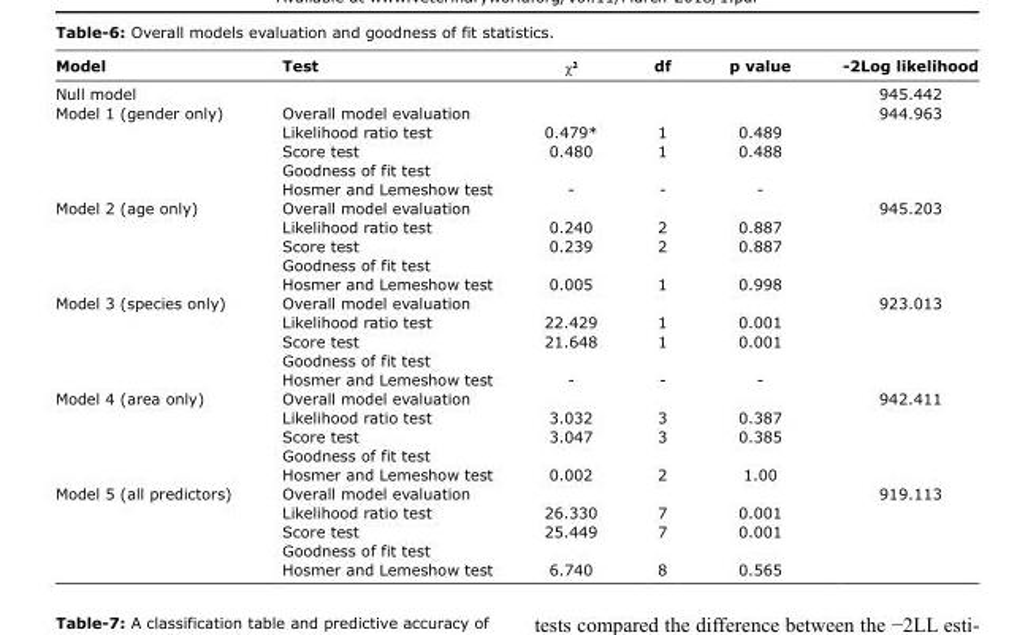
<table><thead><tr><td>Model</td><td>Test</td><td>χ<sup>2</sup></td><td>df</td><td>p value</td><td>-2Log likelihood</td></tr></thead><tbody><tr><td>Null model</td><td></td><td></td><td></td><td></td><td>945.442</td></tr><tr><td rowspan="5">Model 1 (gender only)</td><td>Overall model evaluation</td><td></td><td></td><td></td><td>944.963</td></tr><tr><td>Likelihood ratio test</td><td>0.479*</td><td>1</td><td>0.489</td><td></td></tr><tr><td>Score test</td><td>0.480</td><td>1</td><td>0.488</td><td></td></tr><tr><td>Goodness of fit test</td><td></td><td></td><td></td><td></td></tr><tr><td>Hosmer and Lemeshow test</td><td>-</td><td>-</td><td>-</td><td></td></tr><tr><td rowspan="5">Model 2 (age only)</td><td>Overall model evaluation</td><td></td><td></td><td></td><td>945.203</td></tr><tr><td>Likelihood ratio test</td><td>0.240</td><td>2</td><td>0.887</td><td></td></tr><tr><td>Score test</td><td>0.239</td><td>2</td><td>0.887</td><td></td></tr><tr><td>Goodness of fit test</td><td></td><td></td><td></td><td></td></tr><tr><td>Hosmer and Lemeshow test</td><td>0.005</td><td>1</td><td>0.998</td><td></td></tr><tr><td rowspan="5">Model 3 (species only)</td><td>Overall model evaluation</td><td></td><td></td><td></td><td>923.013</td></tr><tr><td>Likelihood ratio test</td><td>22.429</td><td>1</td><td>0.001</td><td></td></tr><tr><td>Score test</td><td>21.648</td><td>1</td><td>0.001</td><td></td></tr><tr><td>Goodness of fit test</td><td></td><td></td><td></td><td></td></tr><tr><td>Hosmer and Lemeshow test</td><td>-</td><td>-</td><td>-</td><td></td></tr><tr><td rowspan="5">Model 4 (area only)</td><td>Overall model evaluation</td><td></td><td></td><td></td><td>942.411</td></tr><tr><td>Likelihood ratio test</td><td>3.032</td><td>3</td><td>0.387</td><td></td></tr><tr><td>Score test</td><td>3.047</td><td>3</td><td>0.385</td><td></td></tr><tr><td>Goodness of fit test</td><td></td><td></td><td></td><td></td></tr><tr><td>Hosmer and Lemeshow test</td><td>0.002</td><td>2</td><td>1.00</td><td></td></tr><tr><td rowspan="5">Model 5 (all predictors)</td><td>Overall model evaluation</td><td></td><td></td><td></td><td>919.113</td></tr><tr><td>Likelihood ratio test</td><td>26.330</td><td>7</td><td>0.001</td><td></td></tr><tr><td>Score test</td><td>25.449</td><td>7</td><td>0.001</td><td></td></tr><tr><td>Goodness of fit test</td><td></td><td></td><td></td><td></td></tr><tr><td>Hosmer and Lemeshow test</td><td>6.740</td><td>8</td><td>0.565</td><td></td></tr></tbody></table>